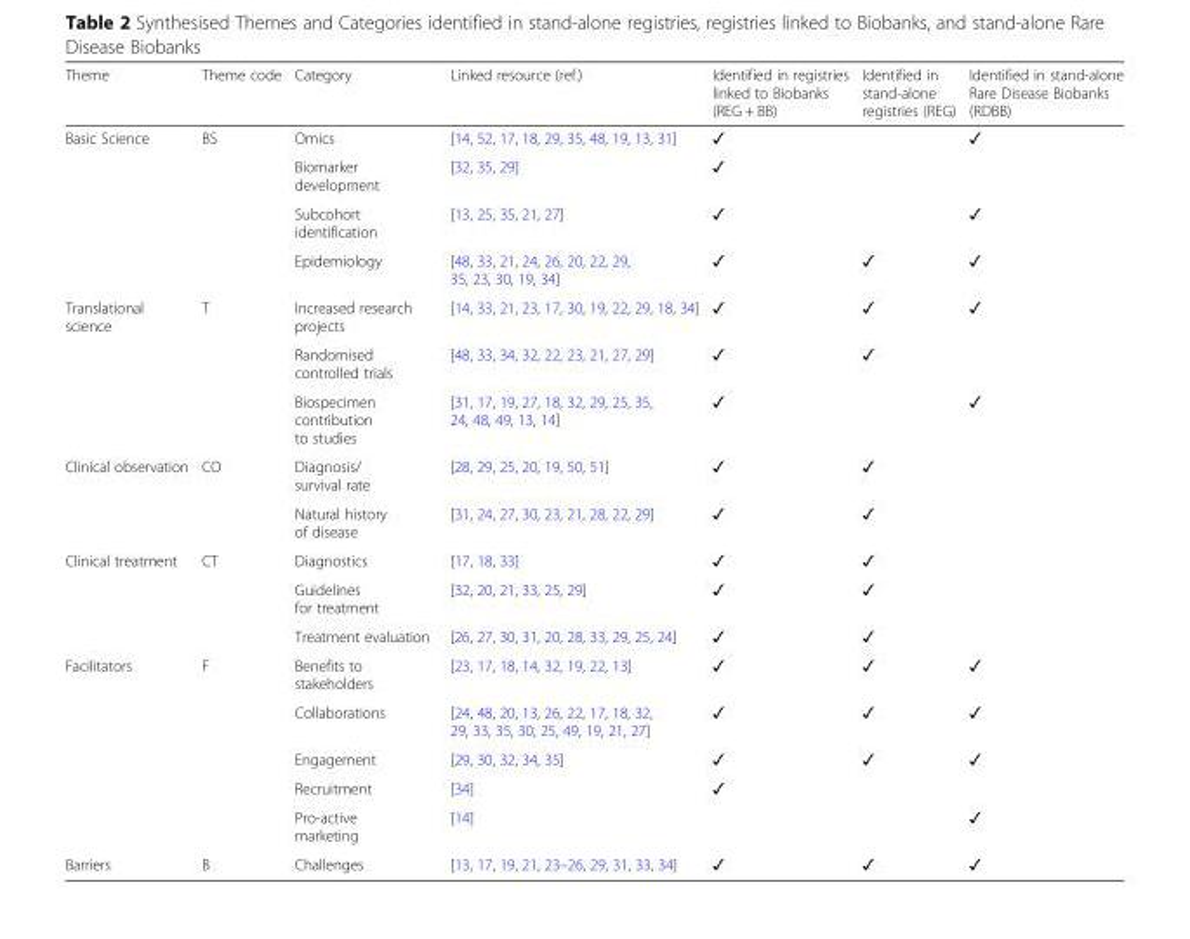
<table><thead><tr><td>Theme</td><td>Theme code</td><td>Category</td><td>Linked resource (ref.)</td><td>Identified in registries linked to Biobanks (REG + BB)</td><td>Identified in stand-alone registries (REG)</td><td>Identified in stand-alone Rare Disease Biobanks (RDBB)</td></tr></thead><tbody><tr><td rowspan="4">Basic Science</td><td rowspan="4">BS</td><td>Omics</td><td>[14, 52, 17, 18, 29, 35, 48, 19, 13, 31]</td><td>✓</td><td></td><td>✓</td></tr><tr><td>Biomarker development</td><td>[32, 35, 29]</td><td>✓</td><td></td><td></td></tr><tr><td>Subcohort identification</td><td>[13, 25, 35, 21, 27]</td><td>✓</td><td></td><td>✓</td></tr><tr><td>Epidemiology</td><td>[48, 33, 21, 24, 26, 20, 22, 29, 35, 23, 30, 19, 34]</td><td>✓</td><td>✓</td><td>✓</td></tr><tr><td rowspan="3">Translational science</td><td rowspan="3">T</td><td>Increased research projects</td><td>[14, 33, 21, 23, 17, 30, 19, 22, 29, 18, 34]</td><td>✓</td><td>✓</td><td>✓</td></tr><tr><td>Randomised controlled trials</td><td>[48, 33, 34, 32, 22, 23, 21, 27, 29]</td><td>✓</td><td>✓</td><td></td></tr><tr><td>Biospecimen contribution to studies</td><td>[31, 17, 19, 27, 18, 32, 29, 25, 35, 24, 48, 49, 13, 14]</td><td>✓</td><td></td><td>✓</td></tr><tr><td rowspan="2">Clinical observation</td><td rowspan="2">CO</td><td>Diagnosis/ survival rate</td><td>[28, 29, 25, 20, 19, 50, 51]</td><td>✓</td><td>✓</td><td></td></tr><tr><td>Natural history of disease</td><td>[31, 24, 27, 30, 23, 21, 28, 22, 29]</td><td>✓</td><td>✓</td><td></td></tr><tr><td rowspan="3">Clinical treatment</td><td rowspan="3">CT</td><td>Diagnostics</td><td>[17, 18, 33]</td><td>✓</td><td>✓</td><td></td></tr><tr><td>Guidelines for treatment</td><td>[32, 20, 21, 33, 25, 29]</td><td>✓</td><td>✓</td><td></td></tr><tr><td>Treatment evaluation</td><td>[26, 27, 30, 31, 20, 28, 33, 29, 25, 24]</td><td>✓</td><td>✓</td><td></td></tr><tr><td rowspan="5">Facilitators</td><td rowspan="5">F</td><td>Benefits to stakeholders</td><td>[23, 17, 18, 14, 32, 19, 22, 13]</td><td>✓</td><td>✓</td><td>✓</td></tr><tr><td>Collaborations</td><td>[24, 48, 20, 13, 26, 22, 17, 18, 32, 29, 33, 35, 30, 25, 49, 19, 21, 27]</td><td>✓</td><td>✓</td><td>✓</td></tr><tr><td>Engagement</td><td>[29, 30, 32, 34, 35]</td><td>✓</td><td>✓</td><td>✓</td></tr><tr><td>Recruitment</td><td>[34]</td><td>✓</td><td></td><td></td></tr><tr><td>Pro-active marketing</td><td>[14]</td><td></td><td></td><td>✓</td></tr><tr><td>Barriers</td><td>B</td><td>Challenges</td><td>[13, 17, 19, 21, 23–26, 29, 31, 33, 34]</td><td>✓</td><td>✓</td><td>✓</td></tr></tbody></table>